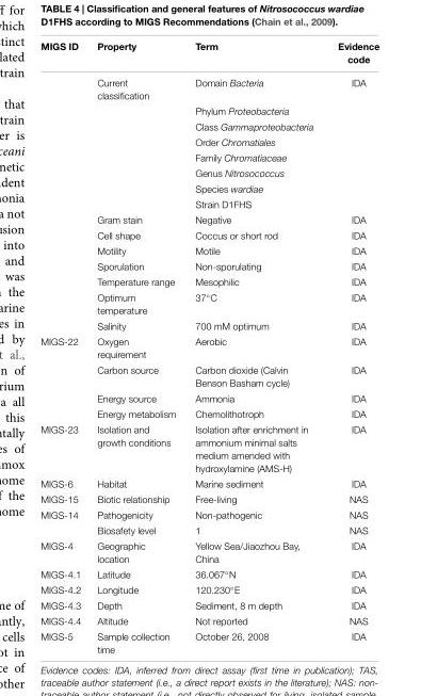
<table><thead><tr><td>MIGS ID</td><td>Property</td><td>Term</td><td>Evidence code</td></tr></thead><tbody><tr><td></td><td>Current classification</td><td>Domain Bacteria</td><td>IDA</td></tr><tr><td></td><td></td><td>Phylum Proteobacteria</td><td></td></tr><tr><td></td><td></td><td>Class Gammaproteobacteria</td><td></td></tr><tr><td></td><td></td><td>Order Chromatiales</td><td></td></tr><tr><td></td><td></td><td>Family Chromatiaceae</td><td></td></tr><tr><td></td><td></td><td>Genus Nitrosococcus</td><td></td></tr><tr><td></td><td></td><td>Species wardiae</td><td></td></tr><tr><td></td><td></td><td>Strain D1FHS</td><td></td></tr><tr><td></td><td>Gram stain</td><td>Negative</td><td>IDA</td></tr><tr><td></td><td>Cell shape</td><td>Coccus or short rod</td><td>IDA</td></tr><tr><td></td><td>Motility</td><td>Motile</td><td>IDA</td></tr><tr><td></td><td>Sporulation</td><td>Non-sporulating</td><td>IDA</td></tr><tr><td></td><td>Temperature range</td><td>Mesophilic</td><td>IDA</td></tr><tr><td></td><td>Optimum temperature</td><td>37◦C</td><td>IDA</td></tr><tr><td></td><td>Salinity</td><td>700 mM optimum</td><td>IDA</td></tr><tr><td rowspan="4">MIGS-22</td><td>Oxygen requirement</td><td>Aerobic</td><td>IDA</td></tr><tr><td>Carbon source</td><td>Carbon dioxide (Calvin Benson Basham cycle)</td><td>IDA</td></tr><tr><td>Energy source</td><td>Ammonia</td><td>IDA</td></tr><tr><td>Energy metabolism</td><td>Chemolithotroph</td><td>IDA</td></tr><tr><td>MIGS-23</td><td>Isolation and growth conditions</td><td>Isolation after enrichment in ammonium minimal salts medium amended with hydroxylamine (AMS-H)</td><td>IDA</td></tr><tr><td>MIGS-6</td><td>Habitat</td><td>Marine sediment</td><td>IDA</td></tr><tr><td>MIGS-15</td><td>Biotic relationship</td><td>Free-living</td><td>NAS</td></tr><tr><td rowspan="2">MIGS-14</td><td>Pathogenicity</td><td>Non-pathogenic</td><td>NAS</td></tr><tr><td>Biosafety level</td><td>1</td><td>NAS</td></tr><tr><td>MIGS-4</td><td>Geographic location</td><td>Yellow Sea/Jiaozhou Bay, China</td><td>IDA</td></tr><tr><td>MIGS-4.1</td><td>Latitude</td><td>36.067◦N</td><td>IDA</td></tr><tr><td>MIGS-4.2</td><td>Longitude</td><td>120.230◦E</td><td>IDA</td></tr><tr><td>MIGS-4.3</td><td>Depth</td><td>Sediment, 8 m depth</td><td>IDA</td></tr><tr><td>MIGS-4.4</td><td>Altitude</td><td>Not reported</td><td>NAS</td></tr><tr><td>MIGS-5</td><td>Sample collection time</td><td>October 26, 2008</td><td>IDA</td></tr></tbody></table>